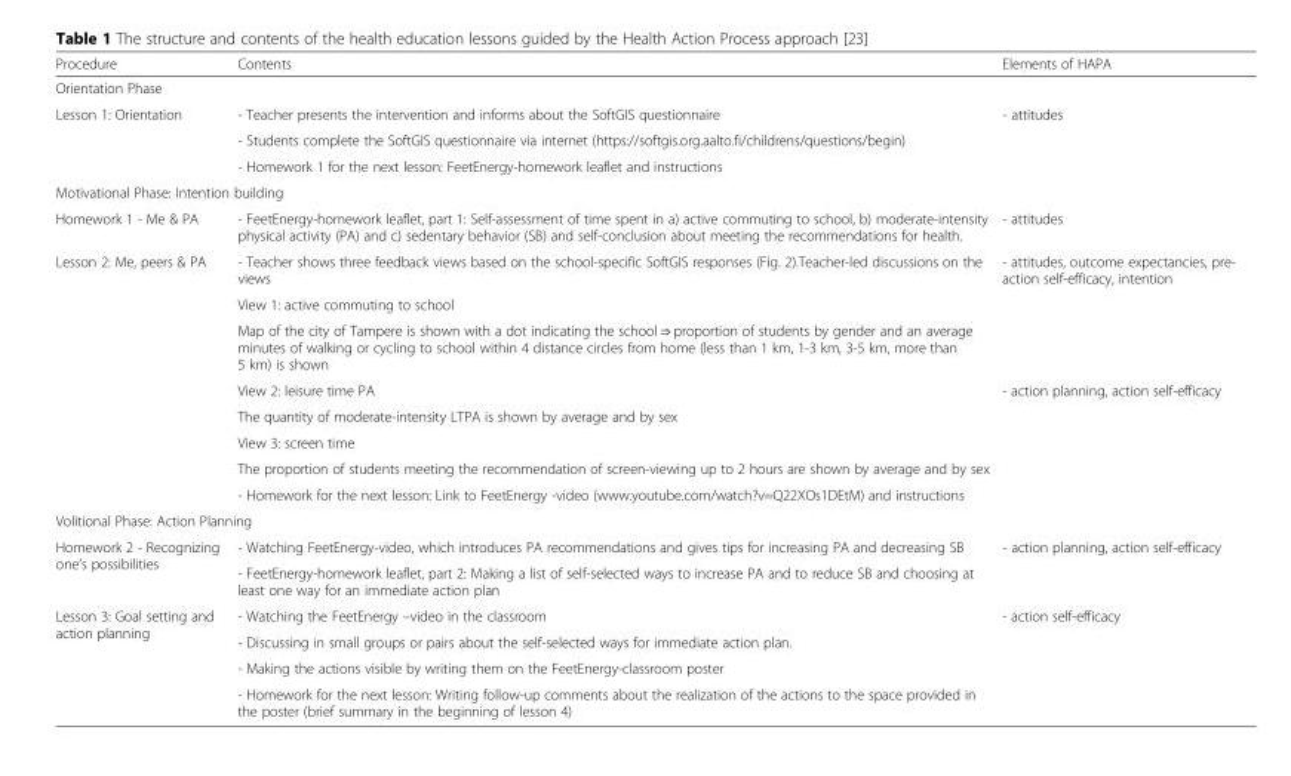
<table><thead><tr><td>Procedure</td><td>Contents</td><td>Elements of HAPA</td></tr></thead><tbody><tr><td colspan="3">Orientation Phase</td></tr><tr><td rowspan="3">Lesson 1: Orientation</td><td>- Teacher presents the intervention and informs about the SoftGIS questionnaire</td><td rowspan="3">- attitudes</td></tr><tr><td>- Students complete the SoftGIS questionnaire via internet (https://softgis.org.aalto.fi/childrens/questions/begin)</td></tr><tr><td>- Homework 1 for the next lesson: FeetEnergy-homework leaflet and instructions</td></tr><tr><td colspan="3">Motivational Phase: Intention building</td></tr><tr><td>Homework 1 - Me &amp; PA</td><td>- FeetEnergy-homework leaflet, part 1: Self-assessment of time spent in a) active commuting to school, b) moderate-intensity physical activity (PA) and c) sedentary behavior (SB) and self-conclusion about meeting the recommendations for health.</td><td>- attitudes</td></tr><tr><td rowspan="8">Lesson 2: Me, peers &amp; PA</td><td>- Teacher shows three feedback views based on the school-specific SoftGIS responses (Fig. 2).Teacher-led discussions on the views</td><td rowspan="3">- attitudes, outcome expectancies, pre- action self-efficacy, intention</td></tr><tr><td>View 1: active commuting to school</td></tr><tr><td>Map of the city of Tampere is shown with a dot indicating the school ⇒ proportion of students by gender and an average minutes of walking or cycling to school within 4 distance circles from home (less than 1 km, 1-3 km, 3-5 km, more than 5 km) is shown</td></tr><tr><td>View 2: leisure time PA</td><td rowspan="5">- action planning, action self-efficacy</td></tr><tr><td>The quantity of moderate-intensity LTPA is shown by average and by sex</td></tr><tr><td>View 3: screen time</td></tr><tr><td>The proportion of students meeting the recommendation of screen-viewing up to 2 hours are shown by average and by sex</td></tr><tr><td>- Homework for the next lesson: Link to FeetEnergy -video (www.youtube.com/watch?v=Q22XOs1DEtM) and instructions</td></tr><tr><td colspan="3">Volitional Phase: Action Planning</td></tr><tr><td rowspan="2">Homework 2 - Recognizing one’s possibilities</td><td>- Watching FeetEnergy-video, which introduces PA recommendations and gives tips for increasing PA and decreasing SB</td><td rowspan="2">- action planning, action self-efficacy</td></tr><tr><td>- FeetEnergy-homework leaflet, part 2: Making a list of self-selected ways to increase PA and to reduce SB and choosing at least one way for an immediate action plan</td></tr><tr><td rowspan="4">Lesson 3: Goal setting and action planning</td><td>- Watching the FeetEnergy –video in the classroom</td><td rowspan="4">- action self-efficacy</td></tr><tr><td>- Discussing in small groups or pairs about the self-selected ways for immediate action plan.</td></tr><tr><td>- Making the actions visible by writing them on the FeetEnergy-classroom poster</td></tr><tr><td>- Homework for the next lesson: Writing follow-up comments about the realization of the actions to the space provided in the poster (brief summary in the beginning of lesson 4)</td></tr></tbody></table>